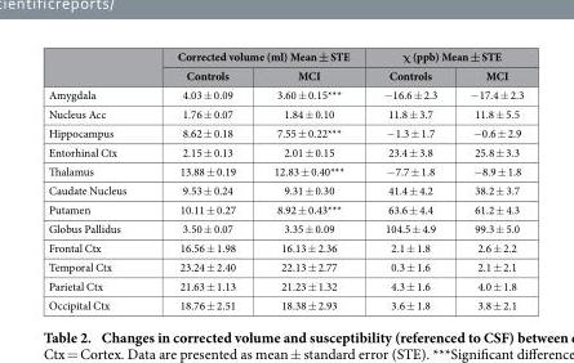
<table><thead><tr><td rowspan="2"></td><td colspan="2">Corrected volume (ml) Mean ± STE</td><td colspan="2">χ (ppb) Mean ± STE</td></tr><tr><td>Controls</td><td>MCI</td><td>Controls</td><td>MCI</td></tr></thead><tbody><tr><td>Amygdala</td><td>4.03 ± 0.09</td><td>3.60 ± 0.15***</td><td>− 16.6 ± 2.3</td><td>− 17.4 ± 2.3</td></tr><tr><td>Nucleus Acc</td><td>1.76 ± 0.07</td><td>1.84 ± 0.10</td><td>11.8 ± 3.7</td><td>11.8 ± 5.5</td></tr><tr><td>Hippocampus</td><td>8.62 ± 0.18</td><td>7.55 ± 0.22***</td><td>− 1.3 ± 1.7</td><td>− 0.6 ± 2.9</td></tr><tr><td>Entorhinal Ctx</td><td>2.15 ± 0.13</td><td>2.01 ± 0.15</td><td>23.4 ± 3.8</td><td>25.8 ± 3.3</td></tr><tr><td>Thalamus</td><td>13.88 ± 0.19</td><td>12.83 ± 0.40***</td><td>− 7.7 ± 1.8</td><td>− 8.9 ± 1.8</td></tr><tr><td>Caudate Nucleus</td><td>9.53 ± 0.24</td><td>9.31 ± 0.30</td><td>41.4 ± 4.2</td><td>38.2 ± 3.7</td></tr><tr><td>Putamen</td><td>10.11 ± 0.27</td><td>8.92 ± 0.43***</td><td>63.6 ± 4.4</td><td>61.2 ± 4.3</td></tr><tr><td>Globus Pallidus</td><td>3.50 ± 0.07</td><td>3.35 ± 0.09</td><td>104.5 ± 4.9</td><td>99.3 ± 5.0</td></tr><tr><td>Frontal Ctx</td><td>16.56 ± 1.98</td><td>16.13 ± 2.36</td><td>2.1 ± 1.8</td><td>2.6 ± 2.2</td></tr><tr><td>Temporal Ctx</td><td>23.24 ± 2.40</td><td>22.13 ± 2.77</td><td>0.3 ± 1.6</td><td>2.1 ± 2.1</td></tr><tr><td>Parietal Ctx</td><td>21.63 ± 1.13</td><td>21.23 ± 1.32</td><td>4.3 ± 1.6</td><td>4.0 ± 1.8</td></tr><tr><td>Occipital Ctx</td><td>18.76 ± 2.51</td><td>18.38 ± 2.93</td><td>3.6 ± 1.8</td><td>3.8 ± 2.1</td></tr></tbody></table>